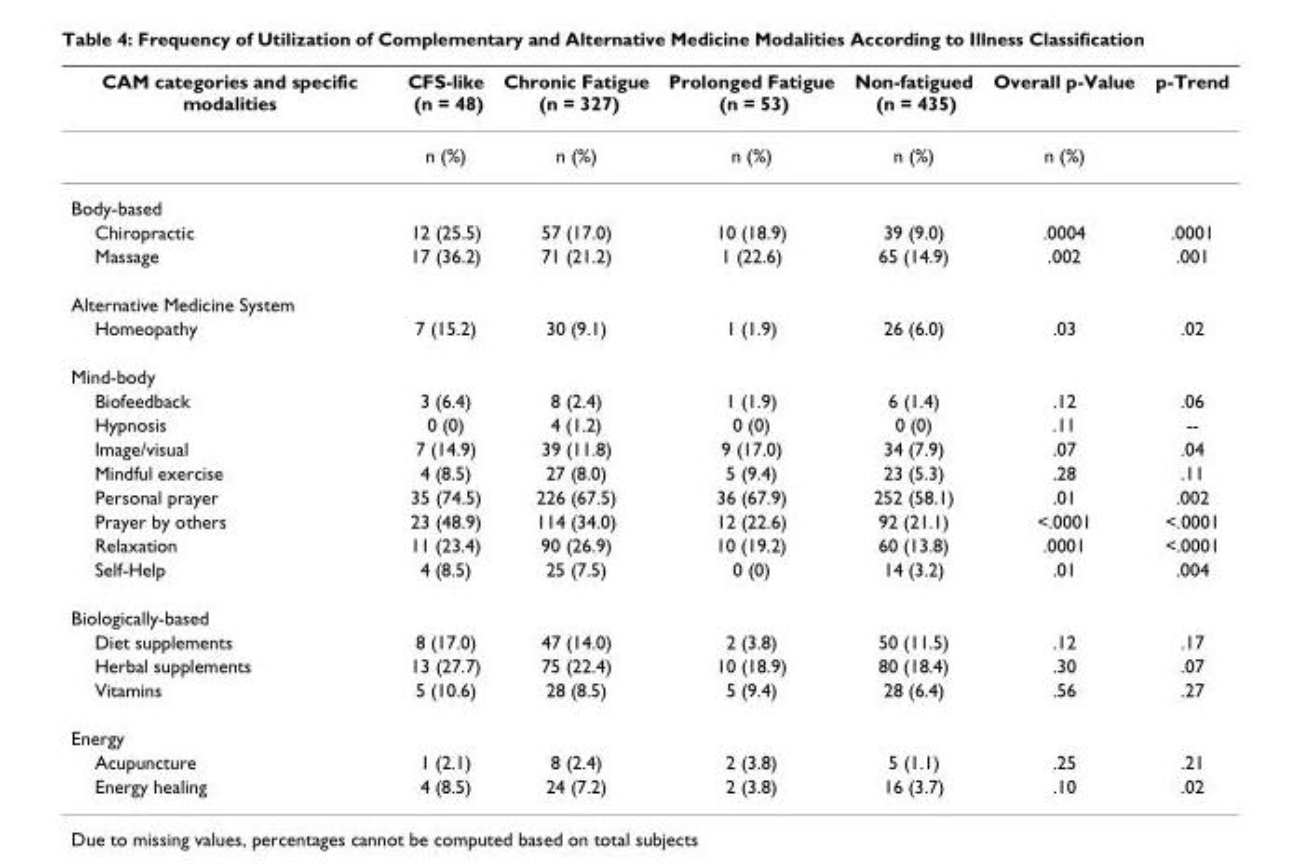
<table><thead><tr><td>CAM categories and specific modalities</td><td>CFS-like (n = 48)</td><td>Chronic Fatigue (n = 327)</td><td>Prolonged Fatigue (n = 53)</td><td>Non-fatigued (n = 435)</td><td>Overall p-Value</td><td>p-Trend</td></tr></thead><tbody><tr><td></td><td>n (%)</td><td>n (%)</td><td>n (%)</td><td>n (%)</td><td>n (%)</td><td></td></tr><tr><td colspan="7">Body-based</td></tr><tr><td>Chiropractic</td><td>12 (25.5)</td><td>57 (17.0)</td><td>10 (18.9)</td><td>39 (9.0)</td><td>.0004</td><td>.0001</td></tr><tr><td>Massage</td><td>17 (36.2)</td><td>71 (21.2)</td><td>1 (22.6)</td><td>65 (14.9)</td><td>.002</td><td>.001</td></tr><tr><td colspan="7">Alternative Medicine System</td></tr><tr><td>Homeopathy</td><td>7 (15.2)</td><td>30 (9.1)</td><td>1 (1.9)</td><td>26 (6.0)</td><td>.03</td><td>.02</td></tr><tr><td colspan="7">Mind-body</td></tr><tr><td>Biofeedback</td><td>3 (6.4)</td><td>8 (2.4)</td><td>1 (1.9)</td><td>6 (1.4)</td><td>.12</td><td>.06</td></tr><tr><td>Hypnosis</td><td>0 (0)</td><td>4 (1.2)</td><td>0 (0)</td><td>0 (0)</td><td>.11</td><td>--</td></tr><tr><td>Image/visual</td><td>7 (14.9)</td><td>39 (11.8)</td><td>9 (17.0)</td><td>34 (7.9)</td><td>.07</td><td>.04</td></tr><tr><td>Mindful exercise</td><td>4 (8.5)</td><td>27 (8.0)</td><td>5 (9.4)</td><td>23 (5.3)</td><td>.28</td><td>.11</td></tr><tr><td>Personal prayer</td><td>35 (74.5)</td><td>226 (67.5)</td><td>36 (67.9)</td><td>252 (58.1)</td><td>.01</td><td>.002</td></tr><tr><td>Prayer by others</td><td>23 (48.9)</td><td>114 (34.0)</td><td>12 (22.6)</td><td>92 (21.1)</td><td>&lt;.0001</td><td>&lt;.0001</td></tr><tr><td>Relaxation</td><td>11 (23.4)</td><td>90 (26.9)</td><td>10 (19.2)</td><td>60 (13.8)</td><td>.0001</td><td>&lt;.0001</td></tr><tr><td>Self-Help</td><td>4 (8.5)</td><td>25 (7.5)</td><td>0 (0)</td><td>14 (3.2)</td><td>.01</td><td>.004</td></tr><tr><td colspan="7">Biologically-based</td></tr><tr><td>Diet supplements</td><td>8 (17.0)</td><td>47 (14.0)</td><td>2 (3.8)</td><td>50 (11.5)</td><td>.12</td><td>.17</td></tr><tr><td>Herbal supplements</td><td>13 (27.7)</td><td>75 (22.4)</td><td>10 (18.9)</td><td>80 (18.4)</td><td>.30</td><td>.07</td></tr><tr><td>Vitamins</td><td>5 (10.6)</td><td>28 (8.5)</td><td>5 (9.4)</td><td>28 (6.4)</td><td>.56</td><td>.27</td></tr><tr><td colspan="7">Energy</td></tr><tr><td>Acupuncture</td><td>1 (2.1)</td><td>8 (2.4)</td><td>2 (3.8)</td><td>5 (1.1)</td><td>.25</td><td>.21</td></tr><tr><td>Energy healing</td><td>4 (8.5)</td><td>24 (7.2)</td><td>2 (3.8)</td><td>16 (3.7)</td><td>.10</td><td>.02</td></tr></tbody></table>